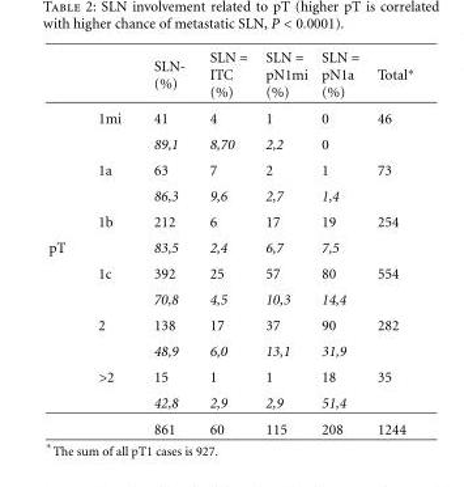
<table><thead><tr><td></td><td></td><td>SLN- (%)</td><td>SLN = ITC (%)</td><td>SLN = pN1mi (%)</td><td>SLN = pN1a (%)</td><td>Total∗</td></tr></thead><tbody><tr><td></td><td>1mi</td><td>41</td><td>4</td><td>1</td><td>0</td><td>46</td></tr><tr><td></td><td></td><td>89,1</td><td>8,70</td><td>2,2</td><td>0</td><td></td></tr><tr><td></td><td>1a</td><td>63</td><td>7</td><td>2</td><td>1</td><td>73</td></tr><tr><td></td><td></td><td>86,3</td><td>9,6</td><td>2,7</td><td>1,4</td><td></td></tr><tr><td></td><td>1b</td><td>212</td><td>6</td><td>17</td><td>19</td><td>254</td></tr><tr><td rowspan="8">pT</td><td></td><td>83,5</td><td>2,4</td><td>6,7</td><td>7,5</td><td></td></tr><tr><td>1c</td><td>392</td><td>25</td><td>57</td><td>80</td><td>554</td></tr><tr><td></td><td>70,8</td><td>4,5</td><td>10,3</td><td>14,4</td><td></td></tr><tr><td>2</td><td>138</td><td>17</td><td>37</td><td>90</td><td>282</td></tr><tr><td></td><td>48,9</td><td>6,0</td><td>13,1</td><td>31,9</td><td></td></tr><tr><td>&gt;2</td><td>15</td><td>1</td><td>1</td><td>18</td><td>35</td></tr><tr><td></td><td>42,8</td><td>2,9</td><td>2,9</td><td>51,4</td><td></td></tr><tr><td></td><td>861</td><td>60</td><td>115</td><td>208</td><td>1244</td></tr></tbody></table>